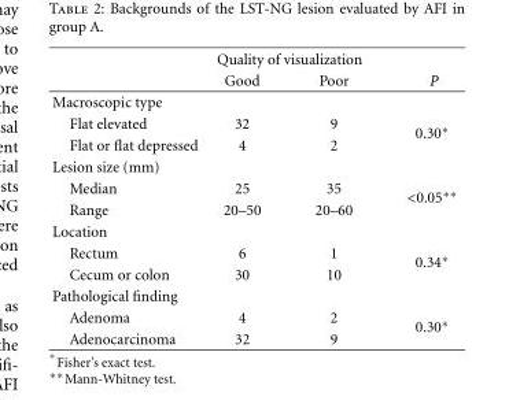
<table><thead><tr><td rowspan="2"></td><td colspan="2">Quality of visualization</td><td rowspan="2">P</td></tr><tr><td>Good</td><td>Poor</td></tr></thead><tbody><tr><td colspan="4">Macroscopic type</td></tr><tr><td>Flat elevated</td><td>32</td><td>9</td><td rowspan="2">0.30∗</td></tr><tr><td>Flat or flat depressed</td><td>4</td><td>2</td></tr><tr><td colspan="4">Lesion size (mm)</td></tr><tr><td>Median</td><td>25</td><td>35</td><td rowspan="2">&lt;0.05∗∗</td></tr><tr><td>Range</td><td>20–50</td><td>20–60</td></tr><tr><td colspan="4">Location</td></tr><tr><td>Rectum</td><td>6</td><td>1</td><td rowspan="2">0.34∗</td></tr><tr><td>Cecum or colon</td><td>30</td><td>10</td></tr><tr><td colspan="4">Pathological finding</td></tr><tr><td>Adenoma</td><td>4</td><td>2</td><td rowspan="2">0.30∗</td></tr><tr><td>Adenocarcinoma</td><td>32</td><td>9</td></tr></tbody></table>